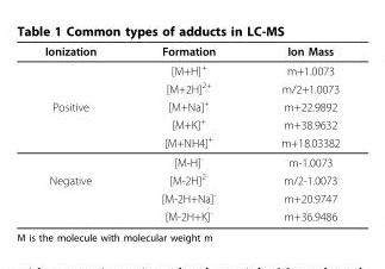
<table><thead><tr><td>Ionization</td><td>Formation</td><td>Ion Mass</td></tr></thead><tbody><tr><td></td><td>[M+H]<sup>+</sup></td><td>m+1.0073</td></tr><tr><td></td><td>[M+2H]<sup>2+</sup></td><td>m/2+1.0073</td></tr><tr><td rowspan="4">Positive</td><td>[M+Na]<sup>+</sup></td><td>m+22.9892</td></tr><tr><td>[M+K]<sup>+</sup></td><td>m+38.9632</td></tr><tr><td>[M+NH4]<sup>+</sup></td><td>m+18.03382</td></tr><tr><td>[M-H]<sup>-</sup></td><td>m-1.0073</td></tr><tr><td rowspan="3">Negative</td><td>[M-2H]<sup>2-</sup></td><td>m/2-1.0073</td></tr><tr><td>[M-2H+Na]<sup>-</sup></td><td>m+20.9747</td></tr><tr><td>[M-2H+K]<sup>-</sup></td><td>m+36.9486</td></tr></tbody></table>